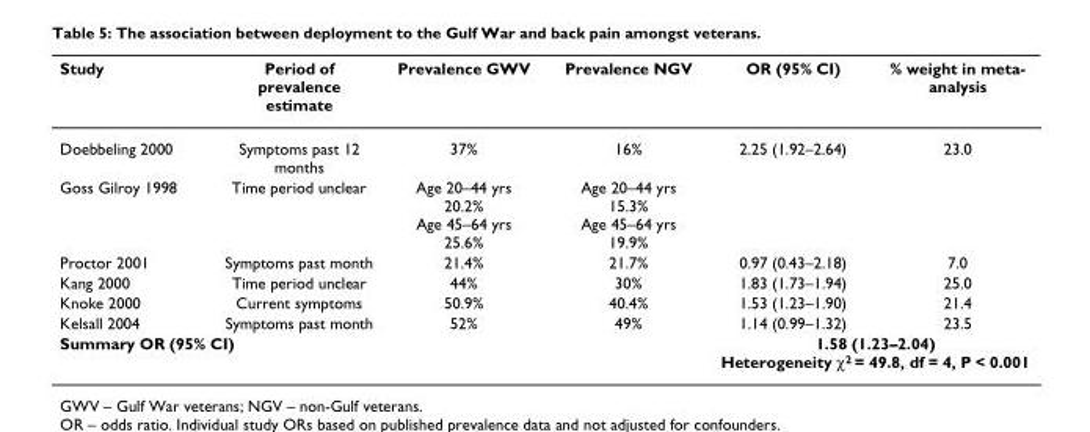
<table><thead><tr><td>Study</td><td>Period of prevalence estimate</td><td>Prevalence GWV</td><td>Prevalence NGV</td><td>OR (95% CI)</td><td>% weight in meta- analysis</td></tr></thead><tbody><tr><td>Doebbeling 2000</td><td>Symptoms past 12 months</td><td>37%</td><td>16%</td><td>2.25 (1.92–2.64)</td><td>23.0</td></tr><tr><td>Goss Gilroy 1998</td><td>Time period unclear</td><td>Age 20–44 yrs 20.2% Age 45–64 yrs 25.6%</td><td>Age 20–44 yrs 15.3% Age 45–64 yrs 19.9%</td><td></td><td></td></tr><tr><td>Proctor 2001</td><td>Symptoms past month</td><td>21.4%</td><td>21.7%</td><td>0.97 (0.43–2.18)</td><td>7.0</td></tr><tr><td>Kang 2000</td><td>Time period unclear</td><td>44%</td><td>30%</td><td>1.83 (1.73–1.94)</td><td>25.0</td></tr><tr><td>Knoke 2000</td><td>Current symptoms</td><td>50.9%</td><td>40.4%</td><td>1.53 (1.23–1.90)</td><td>21.4</td></tr><tr><td>Kelsall 2004</td><td>Symptoms past month</td><td>52%</td><td>49%</td><td>1.14 (0.99–1.32)</td><td>23.5</td></tr><tr><td colspan="4">Summary OR (95% CI)</td><td colspan="2">1.58 (1.23–2.04) Heterogeneity χ2 = 49.8, df = 4, P &lt; 0.001</td></tr></tbody></table>